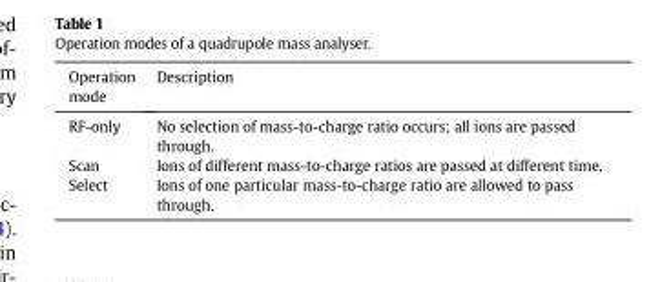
<table><thead><tr><td>Operation mode</td><td>Description</td></tr></thead><tbody><tr><td>RF-only</td><td>No selection of mass-to-charge ratio occurs; all ions are passed through.</td></tr><tr><td>Scan</td><td>Ions of different mass-to-charge ratios are passed at different time.</td></tr><tr><td>Select</td><td>Ions of one particular mass-to-charge ratio are allowed to pass through.</td></tr></tbody></table>